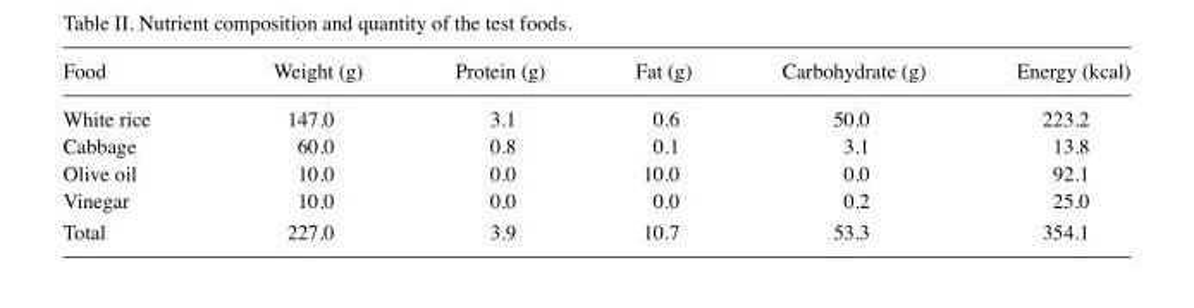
<table><thead><tr><td>Food</td><td>Weight (g)</td><td>Protein (g)</td><td>Fat (g)</td><td>Carbohydrate (g)</td><td>Energy (kcal)</td></tr></thead><tbody><tr><td>White rice</td><td>147.0</td><td>3.1</td><td>0.6</td><td>50.0</td><td>223.2</td></tr><tr><td>Cabbage</td><td>60.0</td><td>0.8</td><td>0.1</td><td>3.1</td><td>13.8</td></tr><tr><td>Olive oil</td><td>10.0</td><td>0.0</td><td>10.0</td><td>0.0</td><td>92.1</td></tr><tr><td>Vinegar</td><td>10.0</td><td>0.0</td><td>0.0</td><td>0.2</td><td>25.0</td></tr><tr><td>Total</td><td>227.0</td><td>3.9</td><td>10.7</td><td>53.3</td><td>354.1</td></tr></tbody></table>